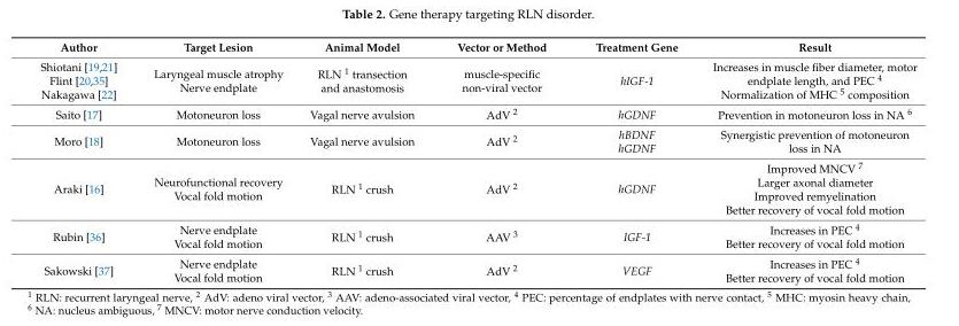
<table><thead><tr><td>Author</td><td>Target Lesion</td><td>Animal Model</td><td>Vector or Method</td><td>Treatment Gene</td><td>Result</td></tr></thead><tbody><tr><td>Shiotani [19,21] Flint [20,35] Nakagawa [22]</td><td>Laryngeal muscle atrophy Nerve endplate</td><td>RLN <sup>1</sup> transection and anastomosis</td><td>muscle-specific non-viral vector</td><td>hIGF-1</td><td>Increases in muscle fiber diameter, motor endplate length, and PEC <sup>4</sup> Normalization of MHC <sup>5</sup> composition</td></tr><tr><td>Saito [17]</td><td>Motoneuron loss</td><td>Vagal nerve avulsion</td><td>AdV <sup>2</sup></td><td>hGDNF</td><td>Prevention in motoneuron loss in NA <sup>6</sup></td></tr><tr><td>Moro [18]</td><td>Motoneuron loss</td><td>Vagal nerve avulsion</td><td>AdV <sup>2</sup></td><td>hBDNF hGDNF</td><td>Synergistic prevention of motoneuron loss in NA</td></tr><tr><td>Araki [16]</td><td>Neurofunctional recovery Vocal fold motion</td><td>RLN <sup>1</sup> crush</td><td>AdV <sup>2</sup></td><td>hGDNF</td><td>Improved MNCV <sup>7</sup> Larger axonal diameter Improved remyelination Better recovery of vocal fold motion</td></tr><tr><td>Rubin [36]</td><td>Nerve endplate Vocal fold motion</td><td>RLN <sup>1</sup> crush</td><td>AAV <sup>3</sup></td><td>IGF-1</td><td>Increases in PEC <sup>4</sup> Better recovery of vocal fold motion</td></tr><tr><td>Sakowski [37]</td><td>Nerve endplate Vocal fold motion</td><td>RLN <sup>1</sup> crush</td><td>AdV <sup>2</sup></td><td>VEGF</td><td>Increases in PEC <sup>4</sup> Better recovery of vocal fold motion</td></tr></tbody></table>